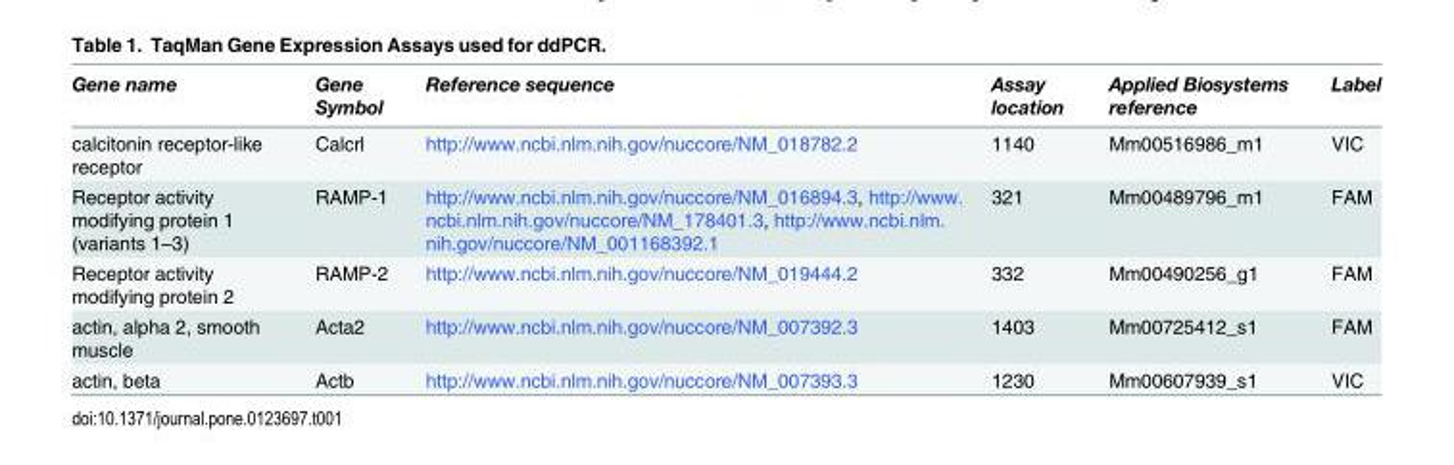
<table><thead><tr><td>Gene name</td><td>Gene Symbol</td><td>Reference sequence</td><td>Assay location</td><td>Applied Biosystems reference</td><td>Label</td></tr></thead><tbody><tr><td>calcitonin receptor-like receptor</td><td>Calcrl</td><td>http://www.ncbi.nlm.nih.gov/nuccore/NM_018782.2</td><td>1140</td><td>Mm00516986_m1</td><td>VIC</td></tr><tr><td>Receptor activity modifying protein 1 (variants 1–3)</td><td>RAMP-1</td><td>http://www.ncbi.nlm.nih.gov/nuccore/NM_016894.3, http://www. ncbi.nlm.nih.gov/nuccore/NM_178401.3, http://www.ncbi.nlm. nih.gov/nuccore/NM_001168392.1</td><td>321</td><td>Mm00489796_m1</td><td>FAM</td></tr><tr><td>Receptor activity modifying protein 2</td><td>RAMP-2</td><td>http://www.ncbi.nlm.nih.gov/nuccore/NM_019444.2</td><td>332</td><td>Mm00490256_g1</td><td>FAM</td></tr><tr><td>actin, alpha 2, smooth muscle</td><td>Acta2</td><td>http://www.ncbi.nlm.nih.gov/nuccore/NM_007392.3</td><td>1403</td><td>Mm00725412_s1</td><td>FAM</td></tr><tr><td>actin, beta</td><td>Actb</td><td>http://www.ncbi.nlm.nih.gov/nuccore/NM_007393.3</td><td>1230</td><td>Mm00607939_s1</td><td>VIC</td></tr></tbody></table>